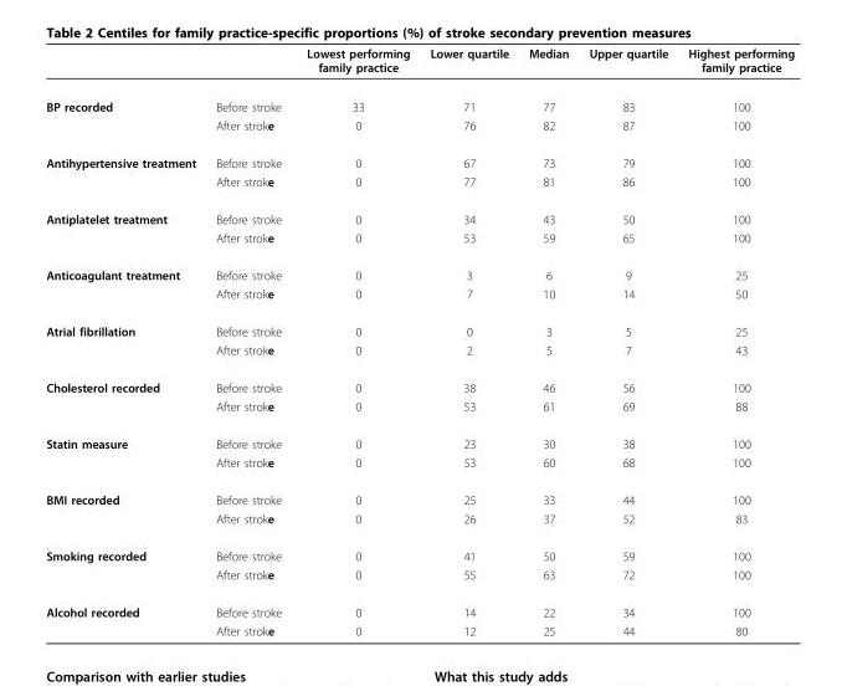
<table><thead><tr><td></td><td></td><td>Lowest performing family practice</td><td>Lower quartile</td><td>Median</td><td>Upper quartile</td><td>Highest performing family practice</td></tr></thead><tbody><tr><td rowspan="2">BP recorded</td><td>Before stroke</td><td>33</td><td>71</td><td>77</td><td>83</td><td>100</td></tr><tr><td>After stroke</td><td>0</td><td>76</td><td>82</td><td>87</td><td>100</td></tr><tr><td rowspan="2">Antihypertensive treatment</td><td>Before stroke</td><td>0</td><td>67</td><td>73</td><td>79</td><td>100</td></tr><tr><td>After stroke</td><td>0</td><td>77</td><td>81</td><td>86</td><td>100</td></tr><tr><td rowspan="2">Antiplatelet treatment</td><td>Before stroke</td><td>0</td><td>34</td><td>43</td><td>50</td><td>100</td></tr><tr><td>After stroke</td><td>0</td><td>53</td><td>59</td><td>65</td><td>100</td></tr><tr><td rowspan="2">Anticoagulant treatment</td><td>Before stroke</td><td>0</td><td>3</td><td>6</td><td>9</td><td>25</td></tr><tr><td>After stroke</td><td>0</td><td>7</td><td>10</td><td>14</td><td>50</td></tr><tr><td rowspan="2">Atrial fibrillation</td><td>Before stroke</td><td>0</td><td>0</td><td>3</td><td>5</td><td>25</td></tr><tr><td>After stroke</td><td>0</td><td>2</td><td>5</td><td>7</td><td>43</td></tr><tr><td rowspan="2">Cholesterol recorded</td><td>Before stroke</td><td>0</td><td>38</td><td>46</td><td>56</td><td>100</td></tr><tr><td>After stroke</td><td>0</td><td>53</td><td>61</td><td>69</td><td>88</td></tr><tr><td rowspan="2">Statin measure</td><td>Before stroke</td><td>0</td><td>23</td><td>30</td><td>38</td><td>100</td></tr><tr><td>After stroke</td><td>0</td><td>53</td><td>60</td><td>68</td><td>100</td></tr><tr><td rowspan="2">BMI recorded</td><td>Before stroke</td><td>0</td><td>25</td><td>33</td><td>44</td><td>100</td></tr><tr><td>After stroke</td><td>0</td><td>26</td><td>37</td><td>52</td><td>83</td></tr><tr><td rowspan="2">Smoking recorded</td><td>Before stroke</td><td>0</td><td>41</td><td>50</td><td>59</td><td>100</td></tr><tr><td>After stroke</td><td>0</td><td>55</td><td>63</td><td>72</td><td>100</td></tr><tr><td rowspan="2">Alcohol recorded</td><td>Before stroke</td><td>0</td><td>14</td><td>22</td><td>34</td><td>100</td></tr><tr><td>After stroke</td><td>0</td><td>12</td><td>25</td><td>44</td><td>80</td></tr></tbody></table>